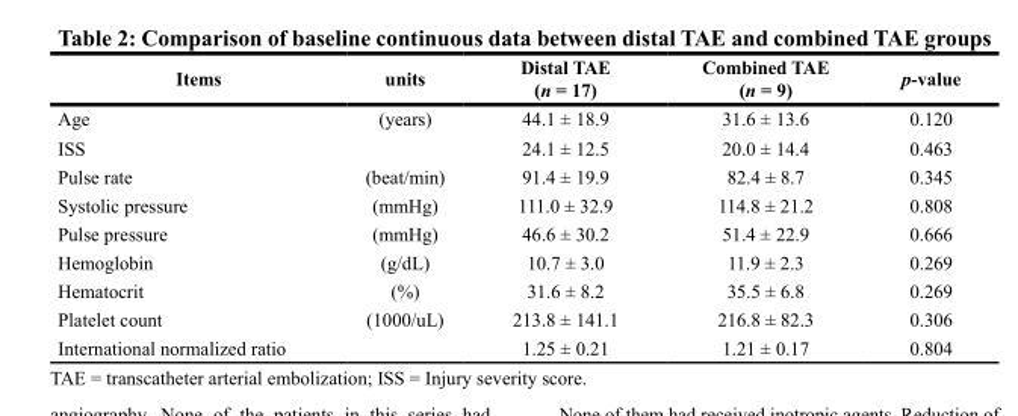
<table><thead><tr><td>Items</td><td>units</td><td>Distal TAE (n = 17)</td><td>Combined TAE (n = 9)</td><td>p-value</td></tr></thead><tbody><tr><td>Age</td><td>(years)</td><td>44.1 ± 18.9</td><td>31.6 ± 13.6</td><td>0.120</td></tr><tr><td>ISS</td><td></td><td>24.1 ± 12.5</td><td>20.0 ± 14.4</td><td>0.463</td></tr><tr><td>Pulse rate</td><td>(beat/min)</td><td>91.4 ± 19.9</td><td>82.4 ± 8.7</td><td>0.345</td></tr><tr><td>Systolic pressure</td><td>(mmHg)</td><td>111.0 ± 32.9</td><td>114.8 ± 21.2</td><td>0.808</td></tr><tr><td>Pulse pressure</td><td>(mmHg)</td><td>46.6 ± 30.2</td><td>51.4 ± 22.9</td><td>0.666</td></tr><tr><td>Hemoglobin</td><td>(g/dL)</td><td>10.7 ± 3.0</td><td>11.9 ± 2.3</td><td>0.269</td></tr><tr><td>Hematocrit</td><td>(%)</td><td>31.6 ± 8.2</td><td>35.5 ± 6.8</td><td>0.269</td></tr><tr><td>Platelet count</td><td>(1000/uL)</td><td>213.8 ± 141.1</td><td>216.8 ± 82.3</td><td>0.306</td></tr><tr><td>International normalized ratio</td><td></td><td>1.25 ± 0.21</td><td>1.21 ± 0.17</td><td>0.804</td></tr></tbody></table>